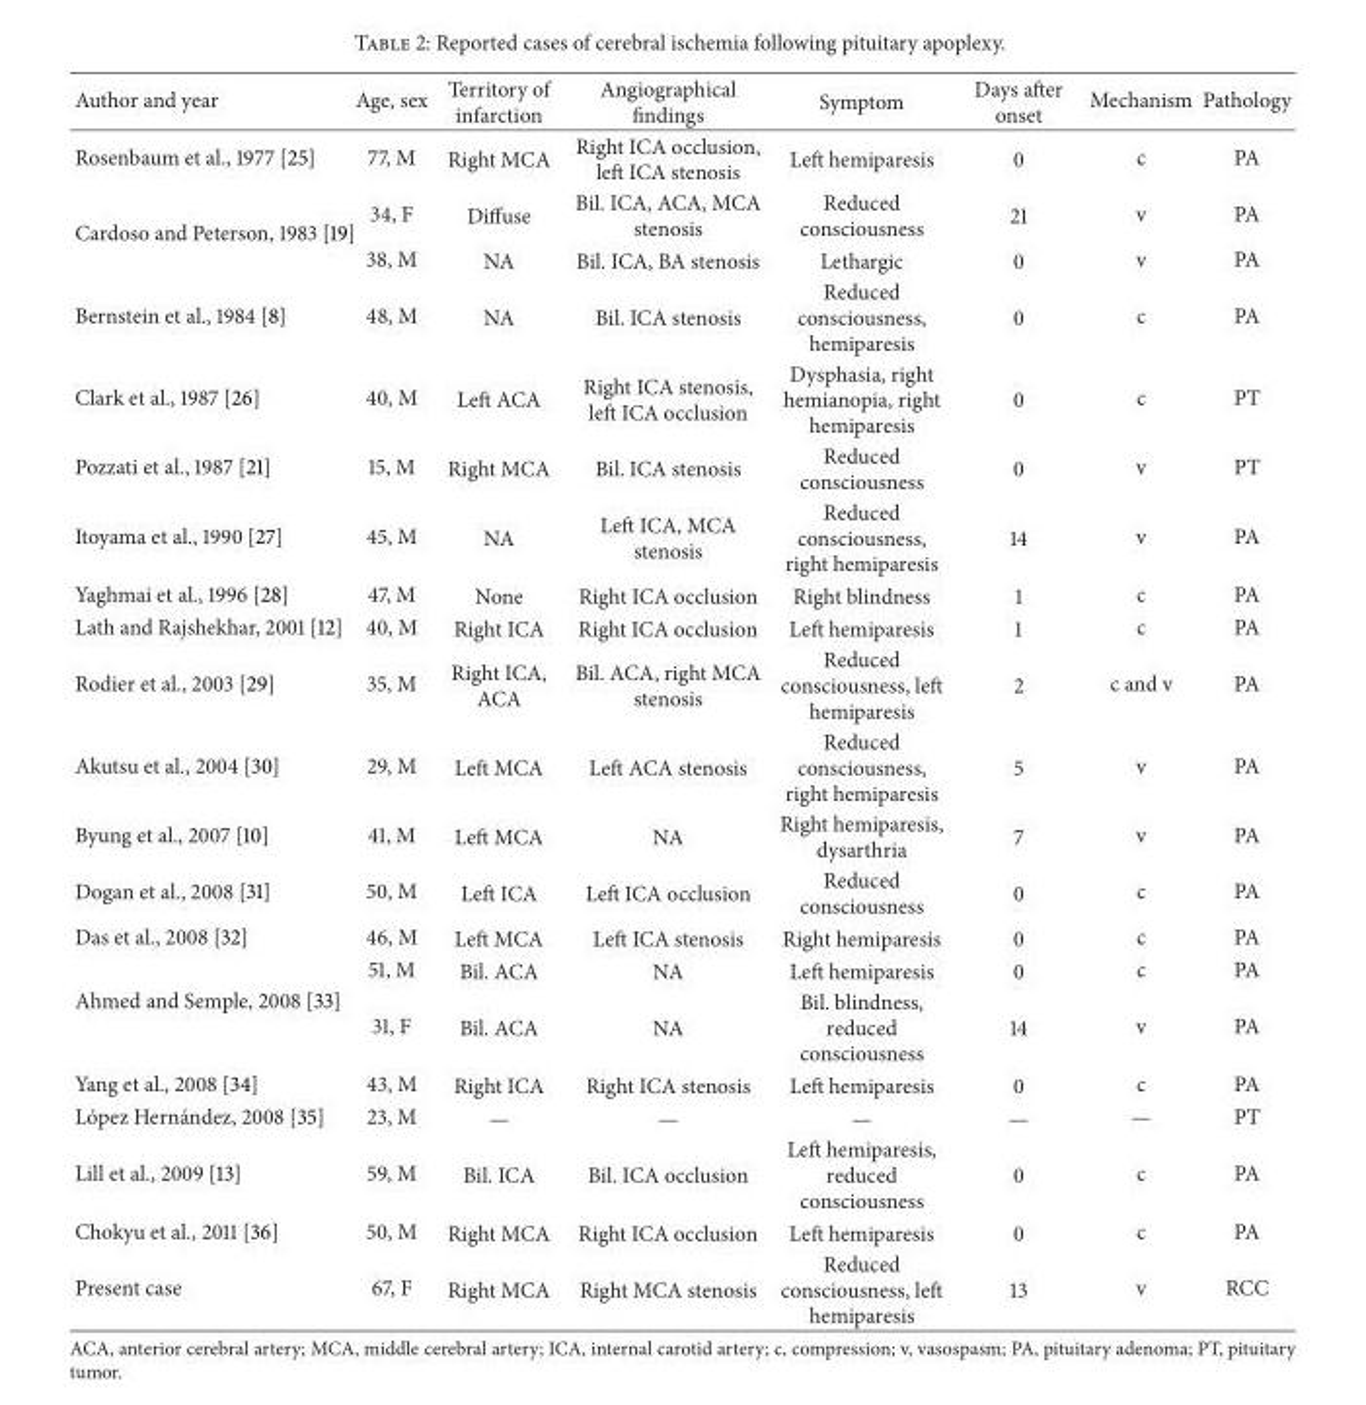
<table><thead><tr><td>Author and year</td><td>Age, sex</td><td>Territory of infarction</td><td>Angiographical findings</td><td>Symptom</td><td>Days after onset</td><td>Mechanism</td><td>Pathology</td></tr></thead><tbody><tr><td>Rosenbaum et al., 1977 [25]</td><td>77, M</td><td>Right MCA</td><td>Right ICA occlusion, left ICA stenosis</td><td>Left hemiparesis</td><td>0</td><td>c</td><td>PA</td></tr><tr><td rowspan="2">Cardoso and Peterson, 1983 [19]</td><td>34, F</td><td>Diffuse</td><td>Bil. ICA, ACA, MCA stenosis</td><td>Reduced consciousness</td><td>21</td><td>v</td><td>PA</td></tr><tr><td>38, M</td><td>NA</td><td>Bil. ICA, BA stenosis</td><td>Lethargic</td><td>0</td><td>v</td><td>PA</td></tr><tr><td>Bernstein et al., 1984 [8]</td><td>48, M</td><td>NA</td><td>Bil. ICA stenosis</td><td>Reduced consciousness, hemiparesis</td><td>0</td><td>c</td><td>PA</td></tr><tr><td>Clark et al., 1987 [26]</td><td>40, M</td><td>Left ACA</td><td>Right ICA stenosis, left ICA occlusion</td><td>Dysphasia, right hemianopia, right hemiparesis</td><td>0</td><td>c</td><td>PT</td></tr><tr><td>Pozzati et al., 1987 [21]</td><td>15, M</td><td>Right MCA</td><td>Bil. ICA stenosis</td><td>Reduced consciousness</td><td>0</td><td>v</td><td>PT</td></tr><tr><td>Itoyama et al., 1990 [27]</td><td>45, M</td><td>NA</td><td>Left ICA, MCA stenosis</td><td>Reduced consciousness, right hemiparesis</td><td>14</td><td>v</td><td>PA</td></tr><tr><td>Yaghmai et al., 1996 [28]</td><td>47, M</td><td>None</td><td>Right ICA occlusion</td><td>Right blindness</td><td>1</td><td>c</td><td>PA</td></tr><tr><td>Lath and Rajshekhar, 2001 [12]</td><td>40, M</td><td>Right ICA</td><td>Right ICA occlusion</td><td>Left hemiparesis</td><td>1</td><td>c</td><td>PA</td></tr><tr><td>Rodier et al., 2003 [29]</td><td>35, M</td><td>Right ICA, ACA</td><td>Bil. ACA, right MCA stenosis</td><td>Reduced consciousness, left hemiparesis</td><td>2</td><td>c and v</td><td>PA</td></tr><tr><td>Akutsu et al., 2004 [30]</td><td>29, M</td><td>Left MCA</td><td>Left ACA stenosis</td><td>Reduced consciousness, right hemiparesis</td><td>5</td><td>v</td><td>PA</td></tr><tr><td>Byung et al., 2007 [10]</td><td>41, M</td><td>Left MCA</td><td>NA</td><td>Right hemiparesis, dysarthria</td><td>7</td><td>v</td><td>PA</td></tr><tr><td>Dogan et al., 2008 [31]</td><td>50, M</td><td>Left ICA</td><td>Left ICA occlusion</td><td>Reduced consciousness</td><td>0</td><td>c</td><td>PA</td></tr><tr><td>Das et al., 2008 [32]</td><td>46, M</td><td>Left MCA</td><td>Left ICA stenosis</td><td>Right hemiparesis</td><td>0</td><td>c</td><td>PA</td></tr><tr><td rowspan="2">Ahmed and Semple, 2008 [33]</td><td>51, M</td><td>Bil. ACA</td><td>NA</td><td>Left hemiparesis</td><td>0</td><td>c</td><td>PA</td></tr><tr><td>31, F</td><td>Bil. ACA</td><td>NA</td><td>Bil. blindness, reduced consciousness</td><td>14</td><td>v</td><td>PA</td></tr><tr><td>Yang et al., 2008 [34]</td><td>43, M</td><td>Right ICA</td><td>Right ICA stenosis</td><td>Left hemiparesis</td><td>0</td><td>c</td><td>PA</td></tr><tr><td>L´opez Hern´andez, 2008 [35]</td><td>23, M</td><td>—</td><td>—</td><td>—</td><td>—</td><td>—</td><td>PT</td></tr><tr><td>Lill et al., 2009 [13]</td><td>59, M</td><td>Bil. ICA</td><td>Bil. ICA occlusion</td><td>Left hemiparesis, reduced consciousness</td><td>0</td><td>c</td><td>PA</td></tr><tr><td>Chokyu et al., 2011 [36]</td><td>50, M</td><td>Right MCA</td><td>Right ICA occlusion</td><td>Left hemiparesis</td><td>0</td><td>c</td><td>PA</td></tr><tr><td>Present case</td><td>67, F</td><td>Right MCA</td><td>Right MCA stenosis</td><td>Reduced consciousness, left hemiparesis</td><td>13</td><td>v</td><td>RCC</td></tr></tbody></table>